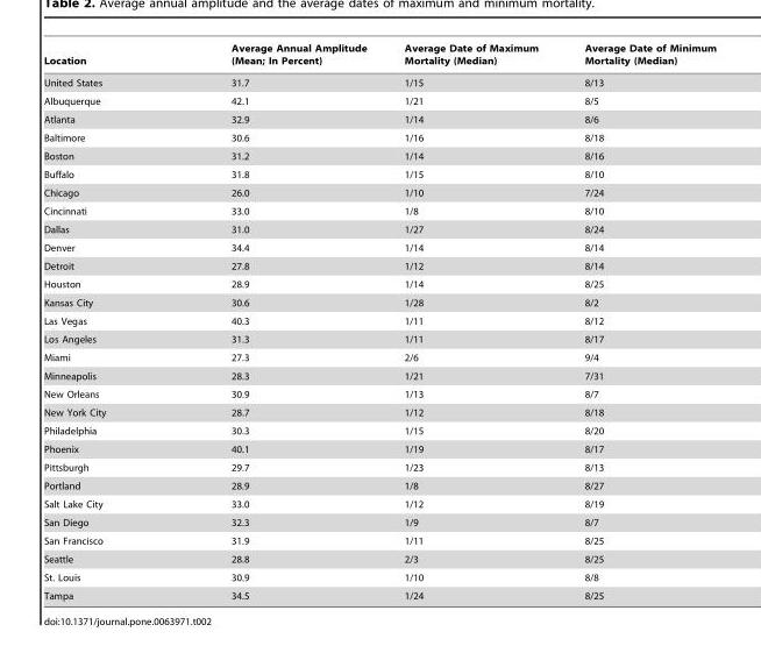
<table><thead><tr><td>Location</td><td>Average Annual Amplitude (Mean; In Percent)</td><td>Average Date of Maximum Mortality (Median)</td><td>Average Date of Minimum Mortality (Median)</td></tr></thead><tbody><tr><td>United States</td><td>31.7</td><td>1/15</td><td>8/13</td></tr><tr><td>Albuquerque</td><td>42.1</td><td>1/21</td><td>8/5</td></tr><tr><td>Atlanta</td><td>32.9</td><td>1/14</td><td>8/6</td></tr><tr><td>Baltimore</td><td>30.6</td><td>1/16</td><td>8/18</td></tr><tr><td>Boston</td><td>31.2</td><td>1/14</td><td>8/16</td></tr><tr><td>Buffalo</td><td>31.8</td><td>1/15</td><td>8/10</td></tr><tr><td>Chicago</td><td>26.0</td><td>1/10</td><td>7/24</td></tr><tr><td>Cincinnati</td><td>33.0</td><td>1/8</td><td>8/10</td></tr><tr><td>Dallas</td><td>31.0</td><td>1/27</td><td>8/24</td></tr><tr><td>Denver</td><td>34.4</td><td>1/14</td><td>8/14</td></tr><tr><td>Detroit</td><td>27.8</td><td>1/12</td><td>8/14</td></tr><tr><td>Houston</td><td>28.9</td><td>1/14</td><td>8/25</td></tr><tr><td>Kansas City</td><td>30.6</td><td>1/28</td><td>8/2</td></tr><tr><td>Las Vegas</td><td>40.3</td><td>1/11</td><td>8/12</td></tr><tr><td>Los Angeles</td><td>31.3</td><td>1/11</td><td>8/17</td></tr><tr><td>Miami</td><td>27.3</td><td>2/6</td><td>9/4</td></tr><tr><td>Minneapolis</td><td>28.3</td><td>1/21</td><td>7/31</td></tr><tr><td>New Orleans</td><td>30.9</td><td>1/13</td><td>8/7</td></tr><tr><td>New York City</td><td>28.7</td><td>1/12</td><td>8/18</td></tr><tr><td>Philadelphia</td><td>30.3</td><td>1/15</td><td>8/20</td></tr><tr><td>Phoenix</td><td>40.1</td><td>1/19</td><td>8/17</td></tr><tr><td>Pittsburgh</td><td>29.7</td><td>1/23</td><td>8/13</td></tr><tr><td>Portland</td><td>28.9</td><td>1/8</td><td>8/27</td></tr><tr><td>Salt Lake City</td><td>33.0</td><td>1/12</td><td>8/19</td></tr><tr><td>San Diego</td><td>32.3</td><td>1/9</td><td>8/7</td></tr><tr><td>San Francisco</td><td>31.9</td><td>1/11</td><td>8/25</td></tr><tr><td>Seattle</td><td>28.8</td><td>2/3</td><td>8/25</td></tr><tr><td>St. Louis</td><td>30.9</td><td>1/10</td><td>8/8</td></tr><tr><td>Tampa</td><td>34.5</td><td>1/24</td><td>8/25</td></tr></tbody></table>